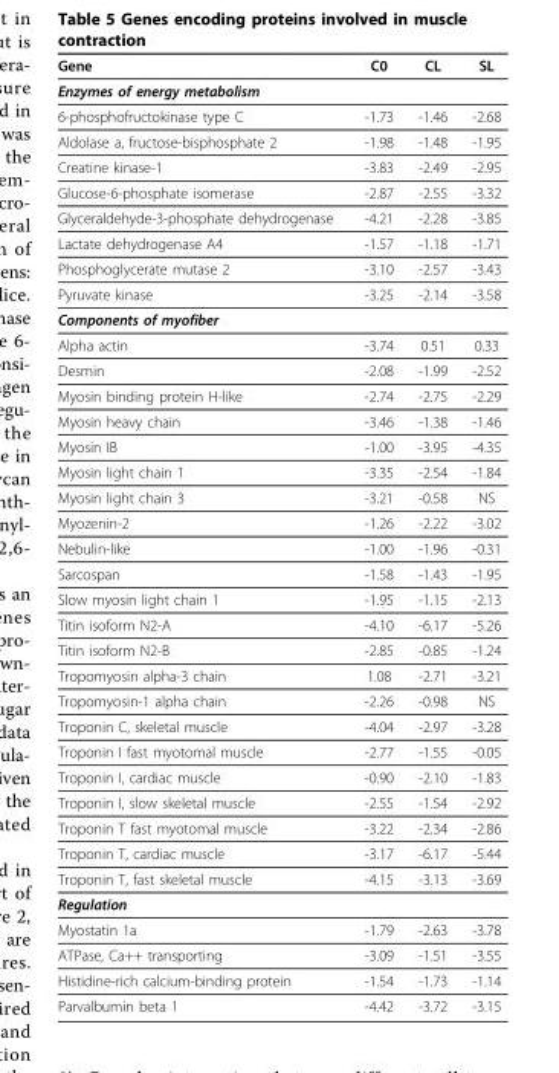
<table><thead><tr><td>Gene</td><td>C0</td><td>CL</td><td>SL</td></tr></thead><tbody><tr><td colspan="4">Enzymes of energy metabolism</td></tr><tr><td>6-phosphofructokinase type C</td><td>-1.73</td><td>-1.46</td><td>-2.68</td></tr><tr><td>Aldolase a, fructose-bisphosphate 2</td><td>-1.98</td><td>-1.48</td><td>-1.95</td></tr><tr><td>Creatine kinase-1</td><td>-3.83</td><td>-2.49</td><td>-2.95</td></tr><tr><td>Glucose-6-phosphate isomerase</td><td>-2.87</td><td>-2.55</td><td>-3.32</td></tr><tr><td>Glyceraldehyde-3-phosphate dehydrogenase</td><td>-4.21</td><td>-2.28</td><td>-3.85</td></tr><tr><td>Lactate dehydrogenase A4</td><td>-1.57</td><td>-1.18</td><td>-1.71</td></tr><tr><td>Phosphoglycerate mutase 2</td><td>-3.10</td><td>-2.57</td><td>-3.43</td></tr><tr><td>Pyruvate kinase</td><td>-3.25</td><td>-2.14</td><td>-3.58</td></tr><tr><td colspan="4">Components of myofiber</td></tr><tr><td>Alpha actin</td><td>-3.74</td><td>0.51</td><td>0.33</td></tr><tr><td>Desmin</td><td>-2.08</td><td>-1.99</td><td>-2.52</td></tr><tr><td>Myosin binding protein H-like</td><td>-2.74</td><td>-2.75</td><td>-2.29</td></tr><tr><td>Myosin heavy chain</td><td>-3.46</td><td>-1.38</td><td>-1.46</td></tr><tr><td>Myosin IB</td><td>-1.00</td><td>-3.95</td><td>-4.35</td></tr><tr><td>Myosin light chain 1</td><td>-3.35</td><td>-2.54</td><td>-1.84</td></tr><tr><td>Myosin light chain 3</td><td>-3.21</td><td>-0.58</td><td>NS</td></tr><tr><td>Myozenin-2</td><td>-1.26</td><td>-2.22</td><td>-3.02</td></tr><tr><td>Nebulin-like</td><td>-1.00</td><td>-1.96</td><td>-0.31</td></tr><tr><td>Sarcospan</td><td>-1.58</td><td>-1.43</td><td>-1.95</td></tr><tr><td>Slow myosin light chain 1</td><td>-1.95</td><td>-1.15</td><td>-2.13</td></tr><tr><td>Titin isoform N2-A</td><td>-4.10</td><td>-6.17</td><td>-5.26</td></tr><tr><td>Titin isoform N2-B</td><td>-2.85</td><td>-0.85</td><td>-1.24</td></tr><tr><td>Tropomyosin alpha-3 chain</td><td>1.08</td><td>-2.71</td><td>-3.21</td></tr><tr><td>Tropomyosin-1 alpha chain</td><td>-2.26</td><td>-0.98</td><td>NS</td></tr><tr><td>Troponin C, skeletal muscle</td><td>-4.04</td><td>-2.97</td><td>-3.28</td></tr><tr><td>Troponin I fast myotomal muscle</td><td>-2.77</td><td>-1.55</td><td>-0.05</td></tr><tr><td>Troponin I, cardiac muscle</td><td>-0.90</td><td>-2.10</td><td>-1.83</td></tr><tr><td>Troponin I, slow skeletal muscle</td><td>-2.55</td><td>-1.54</td><td>-2.92</td></tr><tr><td>Troponin T fast myotomal muscle</td><td>-3.22</td><td>-2.34</td><td>-2.86</td></tr><tr><td>Troponin T, cardiac muscle</td><td>-3.17</td><td>-6.17</td><td>-5.44</td></tr><tr><td>Troponin T, fast skeletal muscle</td><td>-4.15</td><td>-3.13</td><td>-3.69</td></tr><tr><td colspan="4">Regulation</td></tr><tr><td>Myostatin 1a</td><td>-1.79</td><td>-2.63</td><td>-3.78</td></tr><tr><td>ATPase, Ca++ transporting</td><td>-3.09</td><td>-1.51</td><td>-3.55</td></tr><tr><td>Histidine-rich calcium-binding protein</td><td>-1.54</td><td>-1.73</td><td>-1.14</td></tr><tr><td>Parvalbumin beta 1</td><td>-4.42</td><td>-3.72</td><td>-3.15</td></tr></tbody></table>